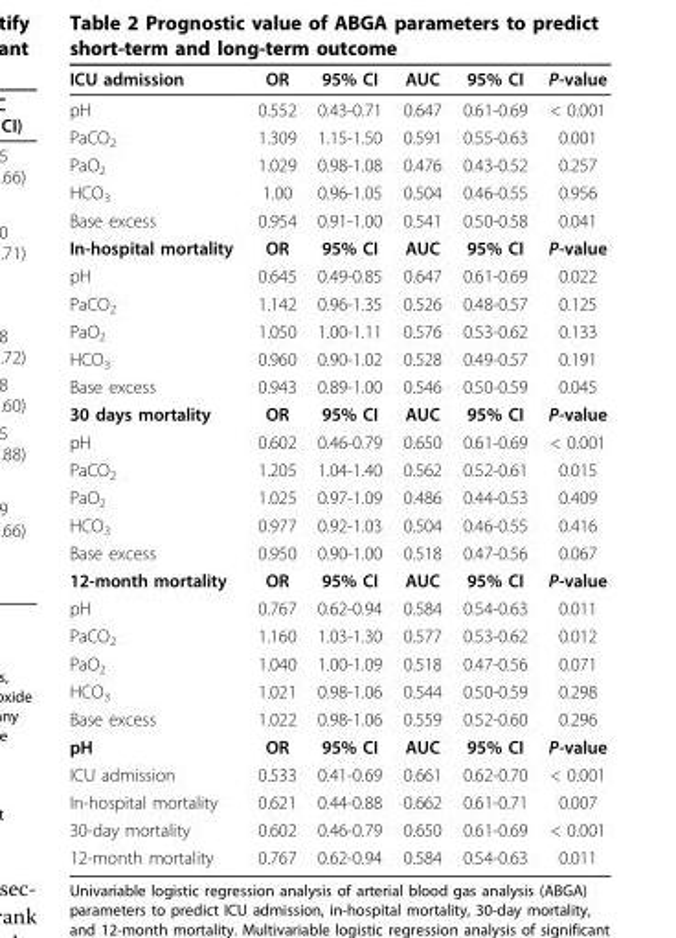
<table><thead><tr><td>ICU admission</td><td>OR</td><td>95% CI</td><td>AUC</td><td>95% CI</td><td>P-value</td></tr></thead><tbody><tr><td>pH</td><td>0.552</td><td>0.43-0.71</td><td>0.647</td><td>0.61-0.69</td><td>&lt; 0.001</td></tr><tr><td>PaCO<sub>2</sub></td><td>1.309</td><td>1.15-1.50</td><td>0.591</td><td>0.55-0.63</td><td>0.001</td></tr><tr><td>PaO<sub>2</sub></td><td>1.029</td><td>0.98-1.08</td><td>0.476</td><td>0.43-0.52</td><td>0.257</td></tr><tr><td>HCO<sub>3</sub></td><td>1.00</td><td>0.96-1.05</td><td>0.504</td><td>0.46-0.55</td><td>0.956</td></tr><tr><td>Base excess</td><td>0.954</td><td>0.91-1.00</td><td>0.541</td><td>0.50-0.58</td><td>0.041</td></tr><tr><td>In-hospital mortality</td><td>OR</td><td>95% CI</td><td>AUC</td><td>95% CI</td><td>P-value</td></tr><tr><td>pH</td><td>0.645</td><td>0.49-0.85</td><td>0.647</td><td>0.61-0.69</td><td>0.022</td></tr><tr><td>PaCO<sub>2</sub></td><td>1.142</td><td>0.96-1.35</td><td>0.526</td><td>0.48-0.57</td><td>0.125</td></tr><tr><td>PaO<sub>2</sub></td><td>1.050</td><td>1.00-1.11</td><td>0.576</td><td>0.53-0.62</td><td>0.133</td></tr><tr><td>HCO<sub>3</sub></td><td>0.960</td><td>0.90-1.02</td><td>0.528</td><td>0.49-0.57</td><td>0.191</td></tr><tr><td>Base excess</td><td>0.943</td><td>0.89-1.00</td><td>0.546</td><td>0.50-0.59</td><td>0.045</td></tr><tr><td>30 days mortality</td><td>OR</td><td>95% CI</td><td>AUC</td><td>95% CI</td><td>P-value</td></tr><tr><td>pH</td><td>0.602</td><td>0.46-0.79</td><td>0.650</td><td>0.61-0.69</td><td>&lt; 0.001</td></tr><tr><td>PaCO<sub>2</sub></td><td>1.205</td><td>1.04-1.40</td><td>0.562</td><td>0.52-0.61</td><td>0.015</td></tr><tr><td>PaO<sub>2</sub></td><td>1.025</td><td>0.97-1.09</td><td>0.486</td><td>0.44-0.53</td><td>0.409</td></tr><tr><td>HCO<sub>3</sub></td><td>0.977</td><td>0.92-1.03</td><td>0.504</td><td>0.46-0.55</td><td>0.416</td></tr><tr><td>Base excess</td><td>0.950</td><td>0.90-1.00</td><td>0.518</td><td>0.47-0.56</td><td>0.067</td></tr><tr><td>12-month mortality</td><td>OR</td><td>95% CI</td><td>AUC</td><td>95% CI</td><td>P-value</td></tr><tr><td>pH</td><td>0.767</td><td>0.62-0.94</td><td>0.584</td><td>0.54-0.63</td><td>0.011</td></tr><tr><td>PaCO<sub>2</sub></td><td>1.160</td><td>1.03-1.30</td><td>0.577</td><td>0.53-0.62</td><td>0.012</td></tr><tr><td>PaO<sub>2</sub></td><td>1.040</td><td>1.00-1.09</td><td>0.518</td><td>0.47-0.56</td><td>0.071</td></tr><tr><td>HCO<sub>3</sub></td><td>1.021</td><td>0.98-1.06</td><td>0.544</td><td>0.50-0.59</td><td>0.298</td></tr><tr><td>Base excess</td><td>1.022</td><td>0.98-1.06</td><td>0.559</td><td>0.52-0.60</td><td>0.296</td></tr><tr><td>pH</td><td>OR</td><td>95% CI</td><td>AUC</td><td>95% CI</td><td>P-value</td></tr><tr><td>ICU admission</td><td>0.533</td><td>0.41-0.69</td><td>0.661</td><td>0.62-0.70</td><td>&lt; 0.001</td></tr><tr><td>In-hospital mortality</td><td>0.621</td><td>0.44-0.88</td><td>0.662</td><td>0.61-0.71</td><td>0.007</td></tr><tr><td>30-day mortality</td><td>0.602</td><td>0.46-0.79</td><td>0.650</td><td>0.61-0.69</td><td>&lt; 0.001</td></tr><tr><td>12-month mortality</td><td>0.767</td><td>0.62-0.94</td><td>0.584</td><td>0.54-0.63</td><td>0.011</td></tr></tbody></table>